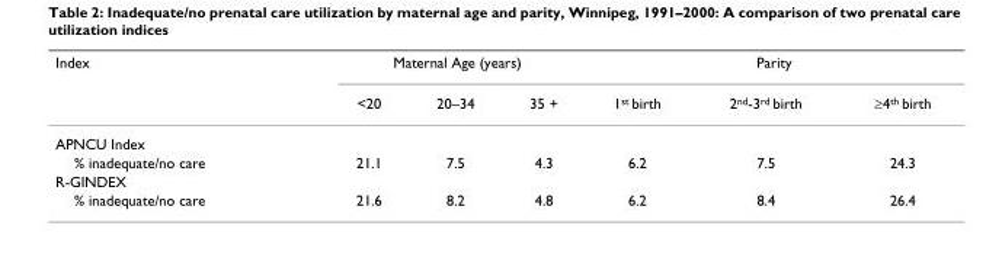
<table><thead><tr><td rowspan="2">Index</td><td colspan="3">Maternal Age (years)</td><td colspan="3">Parity</td></tr><tr><td>&lt;20</td><td>20–34</td><td>35 +</td><td>1<sup>st</sup> birth</td><td>2<sup>nd</sup>-3<sup>rd</sup> birth</td><td>≥4<sup>th</sup> birth</td></tr></thead><tbody><tr><td colspan="7">APNCU Index</td></tr><tr><td>% inadequate/no care</td><td>21.1</td><td>7.5</td><td>4.3</td><td>6.2</td><td>7.5</td><td>24.3</td></tr><tr><td colspan="7">R-GINDEX</td></tr><tr><td>% inadequate/no care</td><td>21.6</td><td>8.2</td><td>4.8</td><td>6.2</td><td>8.4</td><td>26.4</td></tr></tbody></table>